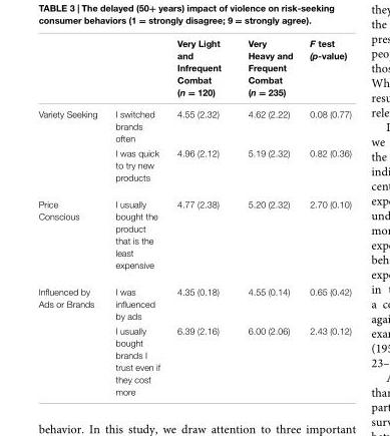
<table><thead><tr><td></td><td></td><td>Very Light and Infrequent Combat (n = 120)</td><td>Very Heavy and Frequent Combat (n = 235)</td><td>F test (p-value)</td></tr></thead><tbody><tr><td rowspan="2">Variety Seeking</td><td>I switched brands often</td><td>4.55 (2.32)</td><td>4.62 (2.22)</td><td>0.08 (0.77)</td></tr><tr><td>I was quick to try new products</td><td>4.96 (2.12)</td><td>5.19 (2.32)</td><td>0.82 (0.36)</td></tr><tr><td>Price Conscious</td><td>I usually bought the product that is the least expensive</td><td>4.77 (2.38)</td><td>5.20 (2.32)</td><td>2.70 (0.10)</td></tr><tr><td rowspan="2">Influenced by Ads or Brands</td><td>I was influenced by ads</td><td>4.35 (0.18)</td><td>4.55 (0.14)</td><td>0.65 (0.42)</td></tr><tr><td>I usually bought brands I trust even if they cost more</td><td>6.39 (2.16)</td><td>6.00 (2.06)</td><td>2.43 (0.12)</td></tr></tbody></table>